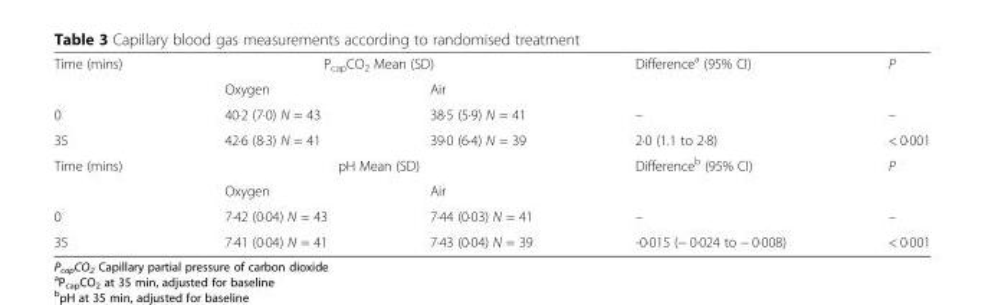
<table><tbody><tr><td rowspan="2">Time (mins)</td><td colspan="2">P<sub>cap</sub>CO<sub>2</sub> Mean (SD)</td><td rowspan="2">Difference<sup>a</sup> (95% CI)</td><td rowspan="2">P</td></tr><tr><td>Oxygen</td><td>Air</td></tr><tr><td>0</td><td>40·2 (7·0) N = 43</td><td>38·5 (5·9) N = 41</td><td>–</td><td>–</td></tr><tr><td>35</td><td>42·6 (8·3) N = 41</td><td>39·0 (6·4) N = 39</td><td>2·0 (1.1 to 2·8)</td><td>&lt; 0·001</td></tr><tr><td rowspan="2">Time (mins)</td><td colspan="2">pH Mean (SD)</td><td rowspan="2">Difference<sup>b</sup> (95% CI)</td><td rowspan="2">P</td></tr><tr><td>Oxygen</td><td>Air</td></tr><tr><td>0</td><td>7·42 (0·04) N = 43</td><td>7·44 (0·03) N = 41</td><td>–</td><td>–</td></tr><tr><td>35</td><td>7·41 (0·04) N = 41</td><td>7·43 (0·04) N = 39</td><td>-0·015 (− 0·024 to − 0·008)</td><td>&lt; 0·001</td></tr></tbody></table>